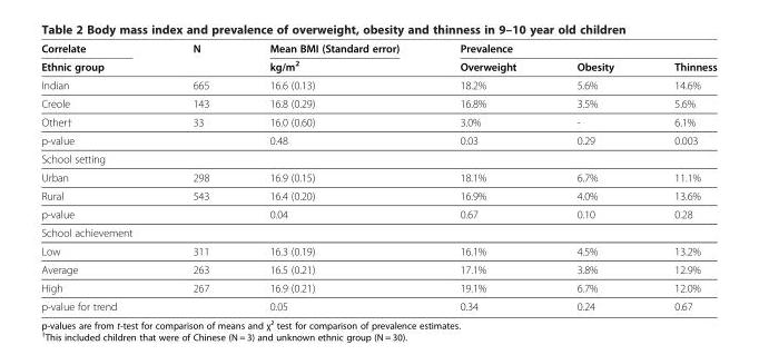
<table><thead><tr><td rowspan="2">Correlate Ethnic group</td><td rowspan="2">N</td><td rowspan="2">Mean BMI (Standard error) kg/m<sup>2</sup></td><td colspan="3">Prevalence</td></tr><tr><td>Overweight</td><td>Obesity</td><td>Thinness</td></tr></thead><tbody><tr><td>Indian</td><td>665</td><td>16.6 (0.13)</td><td>18.2%</td><td>5.6%</td><td>14.6%</td></tr><tr><td>Creole</td><td>143</td><td>16.8 (0.29)</td><td>16.8%</td><td>3.5%</td><td>5.6%</td></tr><tr><td>Other†</td><td>33</td><td>16.0 (0.60)</td><td>3.0%</td><td>-</td><td>6.1%</td></tr><tr><td>p-value</td><td></td><td>0.48</td><td>0.03</td><td>0.29</td><td>0.003</td></tr><tr><td colspan="6">School setting</td></tr><tr><td>Urban</td><td>298</td><td>16.9 (0.15)</td><td>18.1%</td><td>6.7%</td><td>11.1%</td></tr><tr><td>Rural</td><td>543</td><td>16.4 (0.20)</td><td>16.9%</td><td>4.0%</td><td>13.6%</td></tr><tr><td>p-value</td><td></td><td>0.04</td><td>0.67</td><td>0.10</td><td>0.28</td></tr><tr><td colspan="6">School achievement</td></tr><tr><td>Low</td><td>311</td><td>16.3 (0.19)</td><td>16.1%</td><td>4.5%</td><td>13.2%</td></tr><tr><td>Average</td><td>263</td><td>16.5 (0.21)</td><td>17.1%</td><td>3.8%</td><td>12.9%</td></tr><tr><td>High</td><td>267</td><td>16.9 (0.21)</td><td>19.1%</td><td>6.7%</td><td>12.0%</td></tr><tr><td>p-value for trend</td><td></td><td>0.05</td><td>0.34</td><td>0.24</td><td>0.67</td></tr></tbody></table>